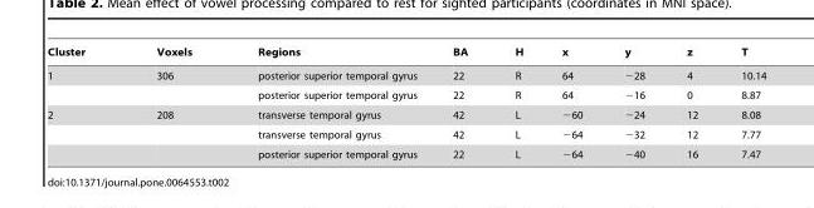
<table><thead><tr><td>Cluster</td><td>Voxels</td><td>Regions</td><td>BA</td><td>H</td><td>x</td><td>y</td><td>z</td><td>T</td></tr></thead><tbody><tr><td rowspan="2">1</td><td>306</td><td>posterior superior temporal gyrus</td><td>22</td><td>R</td><td>64</td><td>−28</td><td>4</td><td>10.14</td></tr><tr><td></td><td>posterior superior temporal gyrus</td><td>22</td><td>R</td><td>64</td><td>−16</td><td>0</td><td>8.87</td></tr><tr><td rowspan="3">2</td><td>208</td><td>transverse temporal gyrus</td><td>42</td><td>L</td><td>−60</td><td>−24</td><td>12</td><td>8.08</td></tr><tr><td></td><td>transverse temporal gyrus</td><td>42</td><td>L</td><td>−64</td><td>−32</td><td>12</td><td>7.77</td></tr><tr><td></td><td>posterior superior temporal gyrus</td><td>22</td><td>L</td><td>−64</td><td>−40</td><td>16</td><td>7.47</td></tr></tbody></table>